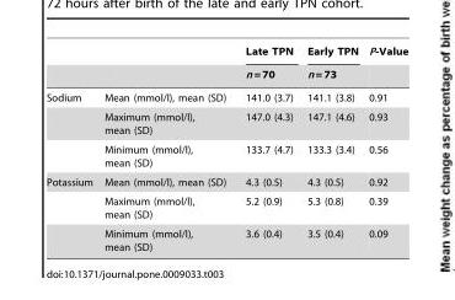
<table><thead><tr><td rowspan="2"></td><td rowspan="2"></td><td rowspan="2">Late TPN n = 70</td><td rowspan="2">Early TPN n = 73</td><td rowspan="2">P-Value</td></tr><tr></tr></thead><tbody><tr><td rowspan="3">Sodium</td><td>Mean (mmol/l), mean (SD)</td><td>141.0 (3.7)</td><td>141.1 (3.8)</td><td>0.91</td></tr><tr><td>Maximum (mmol/l), mean (SD)</td><td>147.0 (4.3)</td><td>147.1 (4.6)</td><td>0.93</td></tr><tr><td>Minimum (mmol/l), mean (SD)</td><td>133.7 (4.7)</td><td>133.3 (3.4)</td><td>0.56</td></tr><tr><td rowspan="3">Potassium</td><td>Mean (mmol/l), mean (SD)</td><td>4.3 (0.5)</td><td>4.3 (0.5)</td><td>0.92</td></tr><tr><td>Maximum (mmol/l), mean (SD)</td><td>5.2 (0.9)</td><td>5.3 (0.8)</td><td>0.39</td></tr><tr><td>Minimum (mmol/l), mean (SD)</td><td>3.6 (0.4)</td><td>3.5 (0.4)</td><td>0.09</td></tr></tbody></table>